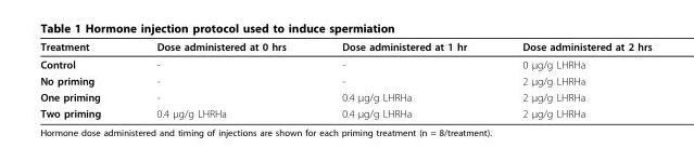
<table><thead><tr><td>Treatment</td><td>Dose administered at 0 hrs</td><td>Dose administered at 1 hr</td><td>Dose administered at 2 hrs</td></tr></thead><tbody><tr><td>Control</td><td>-</td><td>-</td><td>0 μg/g LHRHa</td></tr><tr><td>No priming</td><td>-</td><td>-</td><td>2 μg/g LHRHa</td></tr><tr><td>One priming</td><td>-</td><td>0.4 μg/g LHRHa</td><td>2 μg/g LHRHa</td></tr><tr><td>Two priming</td><td>0.4 μg/g LHRHa</td><td>0.4 μg/g LHRHa</td><td>2 μg/g LHRHa</td></tr></tbody></table>